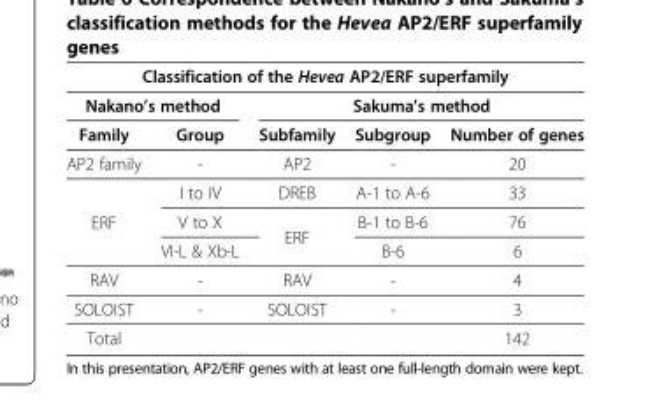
<table><thead><tr><td colspan="5">Classification of the Hevea AP2/ERF superfamily</td></tr><tr><td colspan="2">Nakano’s method</td><td colspan="3">Sakuma’s method</td></tr><tr><td>Family</td><td>Group</td><td>Subfamily</td><td>Subgroup</td><td>Number of genes</td></tr></thead><tbody><tr><td>AP2 family</td><td>-</td><td>AP2</td><td>-</td><td>20</td></tr><tr><td rowspan="3">ERF</td><td>I to IV</td><td>DREB</td><td>A-1 to A-6</td><td>33</td></tr><tr><td>V to X</td><td rowspan="2">ERF</td><td>B-1 to B-6</td><td>76</td></tr><tr><td>VI-L &amp; Xb-L</td><td>B-6</td><td>6</td></tr><tr><td>RAV</td><td>-</td><td>RAV</td><td>-</td><td>4</td></tr><tr><td>SOLOIST</td><td>-</td><td>SOLOIST</td><td>-</td><td>3</td></tr><tr><td>Total</td><td></td><td></td><td></td><td>142</td></tr></tbody></table>